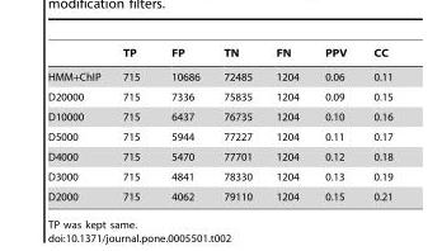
<table><thead><tr><td></td><td>TP</td><td>FP</td><td>TN</td><td>FN</td><td>PPV</td><td>CC</td></tr></thead><tbody><tr><td>HMM+ChIP</td><td>715</td><td>10686</td><td>72485</td><td>1204</td><td>0.06</td><td>0.11</td></tr><tr><td>D20000</td><td>715</td><td>7336</td><td>75835</td><td>1204</td><td>0.09</td><td>0.15</td></tr><tr><td>D10000</td><td>715</td><td>6437</td><td>76735</td><td>1204</td><td>0.10</td><td>0.16</td></tr><tr><td>D5000</td><td>715</td><td>5944</td><td>77227</td><td>1204</td><td>0.11</td><td>0.17</td></tr><tr><td>D4000</td><td>715</td><td>5470</td><td>77701</td><td>1204</td><td>0.12</td><td>0.18</td></tr><tr><td>D3000</td><td>715</td><td>4841</td><td>78330</td><td>1204</td><td>0.13</td><td>0.19</td></tr><tr><td>D2000</td><td>715</td><td>4062</td><td>79110</td><td>1204</td><td>0.15</td><td>0.21</td></tr></tbody></table>